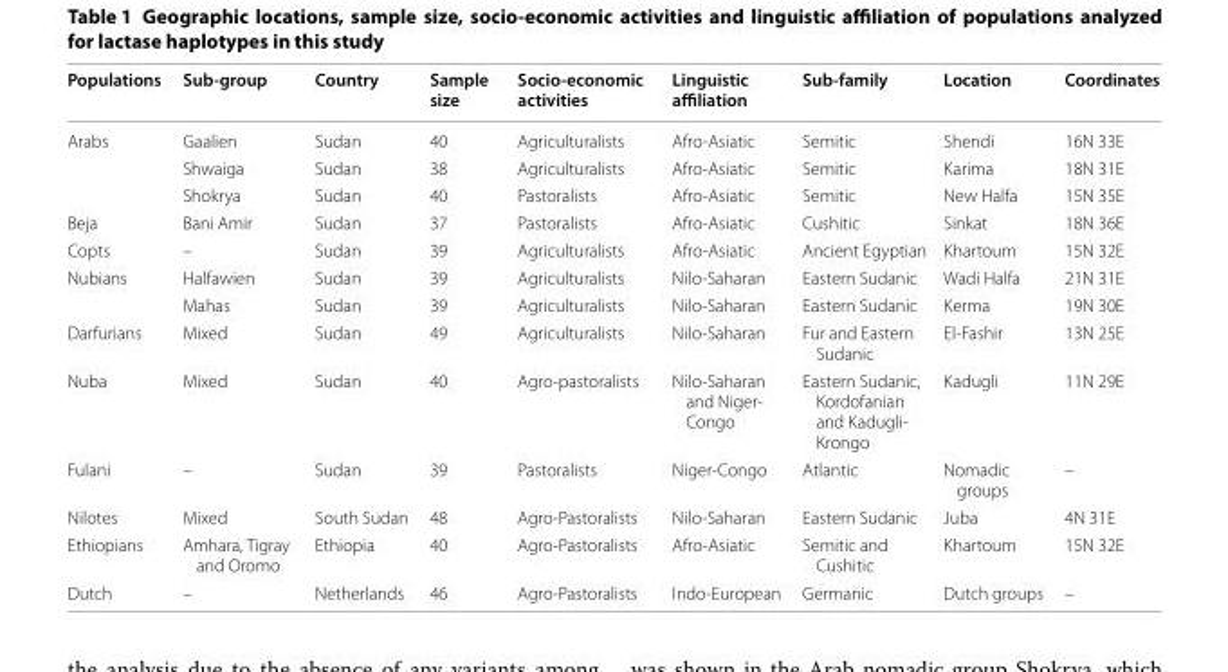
<table><thead><tr><td>Populations</td><td>Sub-group</td><td>Country</td><td>Sample size</td><td>Socio-economic activities</td><td>Linguistic affiliation</td><td>Sub-family</td><td>Location</td><td>Coordinates</td></tr></thead><tbody><tr><td rowspan="3">Arabs</td><td>Gaalien</td><td>Sudan</td><td>40</td><td>Agriculturalists</td><td>Afro-Asiatic</td><td>Semitic</td><td>Shendi</td><td>16N 33E</td></tr><tr><td>Shwaiga</td><td>Sudan</td><td>38</td><td>Agriculturalists</td><td>Afro-Asiatic</td><td>Semitic</td><td>Karima</td><td>18N 31E</td></tr><tr><td>Shokrya</td><td>Sudan</td><td>40</td><td>Pastoralists</td><td>Afro-Asiatic</td><td>Semitic</td><td>New Halfa</td><td>15N 35E</td></tr><tr><td>Beja</td><td>Bani Amir</td><td>Sudan</td><td>37</td><td>Pastoralists</td><td>Afro-Asiatic</td><td>Cushitic</td><td>Sinkat</td><td>18N 36E</td></tr><tr><td>Copts</td><td>–</td><td>Sudan</td><td>39</td><td>Agriculturalists</td><td>Afro-Asiatic</td><td>Ancient Egyptian</td><td>Khartoum</td><td>15N 32E</td></tr><tr><td rowspan="2">Nubians</td><td>Halfawien</td><td>Sudan</td><td>39</td><td>Agriculturalists</td><td>Nilo-Saharan</td><td>Eastern Sudanic</td><td>Wadi Halfa</td><td>21N 31E</td></tr><tr><td>Mahas</td><td>Sudan</td><td>39</td><td>Agriculturalists</td><td>Nilo-Saharan</td><td>Eastern Sudanic</td><td>Kerma</td><td>19N 30E</td></tr><tr><td>Darfurians</td><td>Mixed</td><td>Sudan</td><td>49</td><td>Agriculturalists</td><td>Nilo-Saharan</td><td>Fur and Eastern Sudanic</td><td>El-Fashir</td><td>13N 25E</td></tr><tr><td>Nuba</td><td>Mixed</td><td>Sudan</td><td>40</td><td>Agro-pastoralists</td><td>Nilo-Saharan and Niger- Congo</td><td>Eastern Sudanic, Kordofanian and Kadugli- Krongo</td><td>Kadugli</td><td>11N 29E</td></tr><tr><td>Fulani</td><td>–</td><td>Sudan</td><td>39</td><td>Pastoralists</td><td>Niger-Congo</td><td>Atlantic</td><td>Nomadic groups</td><td>–</td></tr><tr><td>Nilotes</td><td>Mixed</td><td>South Sudan</td><td>48</td><td>Agro-Pastoralists</td><td>Nilo-Saharan</td><td>Eastern Sudanic</td><td>Juba</td><td>4N 31E</td></tr><tr><td>Ethiopians</td><td>Amhara, Tigray and Oromo</td><td>Ethiopia</td><td>40</td><td>Agro-Pastoralists</td><td>Afro-Asiatic</td><td>Semitic and Cushitic</td><td>Khartoum</td><td>15N 32E</td></tr><tr><td>Dutch</td><td>–</td><td>Netherlands</td><td>46</td><td>Agro-Pastoralists</td><td>Indo-European</td><td>Germanic</td><td>Dutch groups</td><td>–</td></tr></tbody></table>